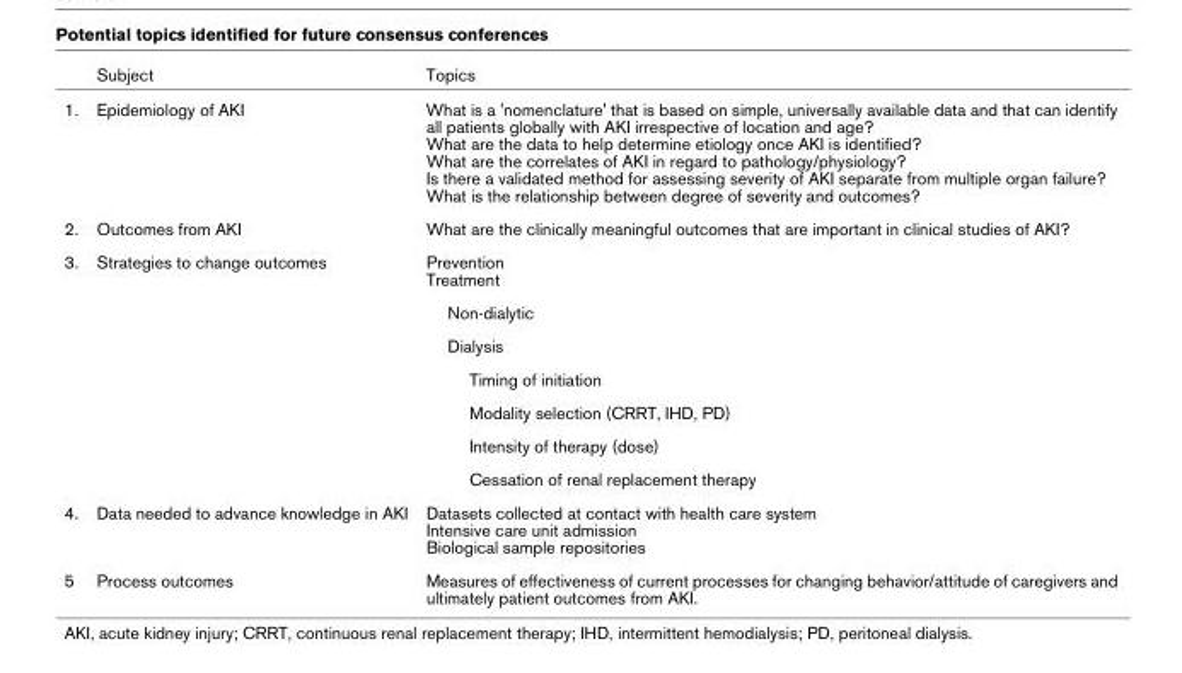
<table><thead><tr><td></td><td>Subject</td><td>Topics</td></tr></thead><tbody><tr><td>1.</td><td>Epidemiology of AKI</td><td>What is a &#x27;nomenclature&#x27; that is based on simple, universally available data and that can identify all patients globally with AKI irrespective of location and age? What are the data to help determine etiology once AKI is identified? What are the correlates of AKI in regard to pathology/physiology? Is there a validated method for assessing severity of AKI separate from multiple organ failure? What is the relationship between degree of severity and outcomes?</td></tr><tr><td>2.</td><td>Outcomes from AKI</td><td>What are the clinically meaningful outcomes that are important in clinical studies of AKI?</td></tr><tr><td rowspan="7">3.</td><td>Strategies to change outcomes</td><td>Prevention Treatment</td></tr><tr><td></td><td>Non-dialytic</td></tr><tr><td></td><td>Dialysis</td></tr><tr><td></td><td>Timing of initiation</td></tr><tr><td></td><td>Modality selection (CRRT, IHD, PD)</td></tr><tr><td></td><td>Intensity of therapy (dose)</td></tr><tr><td></td><td>Cessation of renal replacement therapy</td></tr><tr><td>4.</td><td>Data needed to advance knowledge in AKI</td><td>Datasets collected at contact with health care system Intensive care unit admission Biological sample repositories</td></tr><tr><td>5</td><td>Process outcomes</td><td>Measures of effectiveness of current processes for changing behavior/attitude of caregivers and ultimately patient outcomes from AKI.</td></tr></tbody></table>